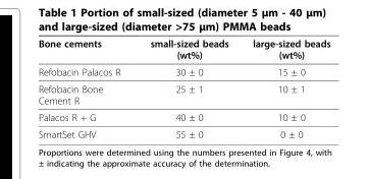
<table><thead><tr><td>Bone cements</td><td>small-sized beads (wt%)</td><td>large-sized beads (wt%)</td></tr></thead><tbody><tr><td>Refobacin Palacos R</td><td>30 ± 0</td><td>15 ± 0</td></tr><tr><td>Refobacin Bone Cement R</td><td>25 ± 1</td><td>10 ± 1</td></tr><tr><td>Palacos R + G</td><td>40 ± 0</td><td>10 ± 0</td></tr><tr><td>SmartSet GHV</td><td>55 ± 0</td><td>0 ± 0</td></tr></tbody></table>